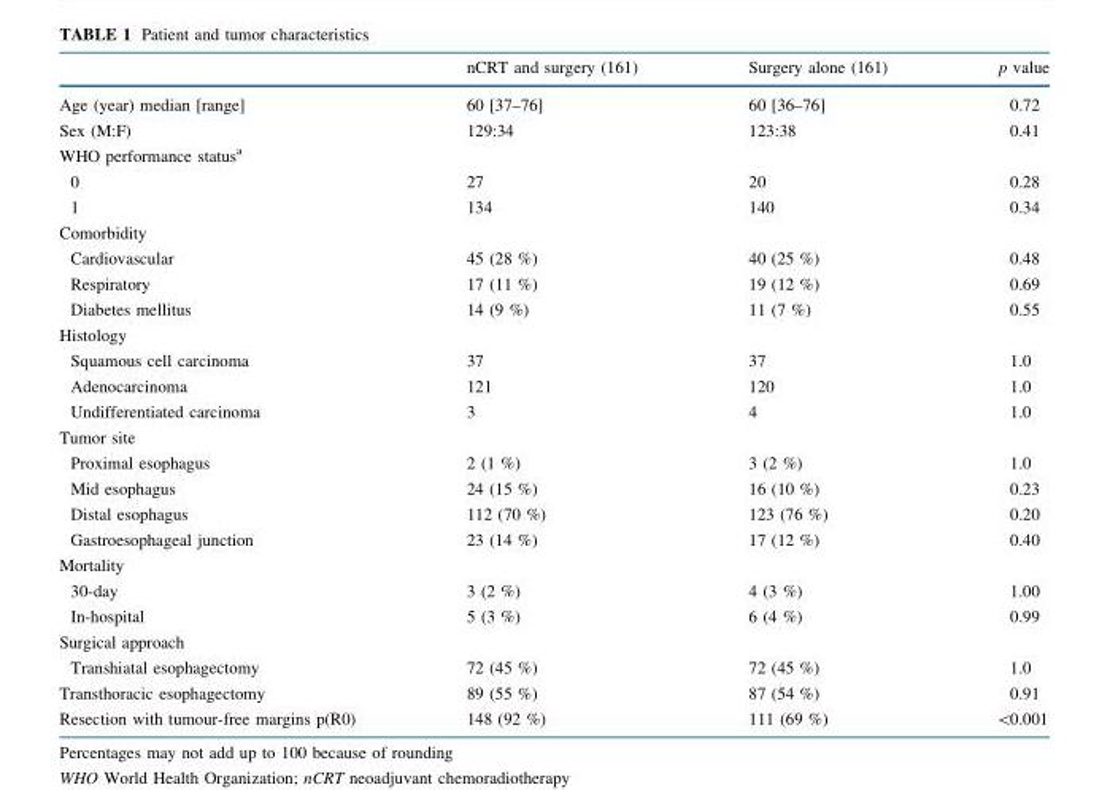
<table><thead><tr><td></td><td>nCRT and surgery (161)</td><td>Surgery alone (161)</td><td>p value</td></tr></thead><tbody><tr><td>Age (year) median [range]</td><td>60 [37–76]</td><td>60 [36–76]</td><td>0.72</td></tr><tr><td>Sex (M:F)</td><td>129:34</td><td>123:38</td><td>0.41</td></tr><tr><td colspan="4">WHO performance status<sup>a</sup></td></tr><tr><td>0</td><td>27</td><td>20</td><td>0.28</td></tr><tr><td>1</td><td>134</td><td>140</td><td>0.34</td></tr><tr><td colspan="4">Comorbidity</td></tr><tr><td>Cardiovascular</td><td>45 (28 %)</td><td>40 (25 %)</td><td>0.48</td></tr><tr><td>Respiratory</td><td>17 (11 %)</td><td>19 (12 %)</td><td>0.69</td></tr><tr><td>Diabetes mellitus</td><td>14 (9 %)</td><td>11 (7 %)</td><td>0.55</td></tr><tr><td colspan="4">Histology</td></tr><tr><td>Squamous cell carcinoma</td><td>37</td><td>37</td><td>1.0</td></tr><tr><td>Adenocarcinoma</td><td>121</td><td>120</td><td>1.0</td></tr><tr><td>Undifferentiated carcinoma</td><td>3</td><td>4</td><td>1.0</td></tr><tr><td colspan="4">Tumor site</td></tr><tr><td>Proximal esophagus</td><td>2 (1 %)</td><td>3 (2 %)</td><td>1.0</td></tr><tr><td>Mid esophagus</td><td>24 (15 %)</td><td>16 (10 %)</td><td>0.23</td></tr><tr><td>Distal esophagus</td><td>112 (70 %)</td><td>123 (76 %)</td><td>0.20</td></tr><tr><td>Gastroesophageal junction</td><td>23 (14 %)</td><td>17 (12 %)</td><td>0.40</td></tr><tr><td colspan="4">Mortality</td></tr><tr><td>30-day</td><td>3 (2 %)</td><td>4 (3 %)</td><td>1.00</td></tr><tr><td>In-hospital</td><td>5 (3 %)</td><td>6 (4 %)</td><td>0.99</td></tr><tr><td colspan="4">Surgical approach</td></tr><tr><td>Transhiatal esophagectomy</td><td>72 (45 %)</td><td>72 (45 %)</td><td>1.0</td></tr><tr><td>Transthoracic esophagectomy</td><td>89 (55 %)</td><td>87 (54 %)</td><td>0.91</td></tr><tr><td>Resection with tumour-free margins p(R0)</td><td>148 (92 %)</td><td>111 (69 %)</td><td>&lt;0.001</td></tr></tbody></table>